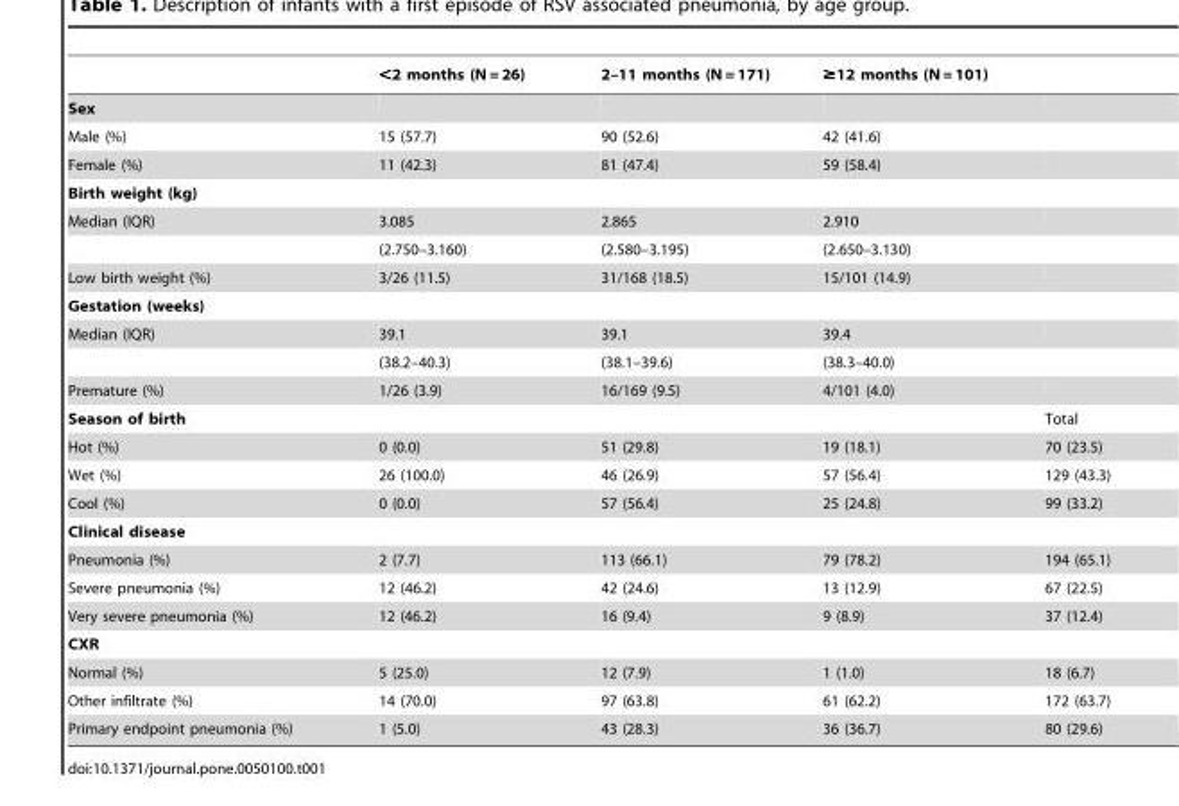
<table><thead><tr><td></td><td>&lt;2 months (N = 26)</td><td>2–11 months (N = 171)</td><td>≥12 months (N = 101)</td><td></td></tr></thead><tbody><tr><td colspan="5">Sex</td></tr><tr><td>Male (%)</td><td>15 (57.7)</td><td>90 (52.6)</td><td>42 (41.6)</td><td></td></tr><tr><td>Female (%)</td><td>11 (42.3)</td><td>81 (47.4)</td><td>59 (58.4)</td><td></td></tr><tr><td colspan="5">Birth weight (kg)</td></tr><tr><td rowspan="2">Median (IQR)</td><td>3.085</td><td>2.865</td><td>2.910</td><td></td></tr><tr><td>(2.750–3.160)</td><td>(2.580–3.195)</td><td>(2.650–3.130)</td><td></td></tr><tr><td>Low birth weight (%)</td><td>3/26 (11.5)</td><td>31/168 (18.5)</td><td>15/101 (14.9)</td><td></td></tr><tr><td colspan="5">Gestation (weeks)</td></tr><tr><td rowspan="2">Median (IQR)</td><td>39.1</td><td>39.1</td><td>39.4</td><td></td></tr><tr><td>(38.2–40.3)</td><td>(38.1–39.6)</td><td>(38.3–40.0)</td><td></td></tr><tr><td>Premature (%)</td><td>1/26 (3.9)</td><td>16/169 (9.5)</td><td>4/101 (4.0)</td><td></td></tr><tr><td>Season of birth</td><td></td><td></td><td></td><td>Total</td></tr><tr><td>Hot (%)</td><td>0 (0.0)</td><td>51 (29.8)</td><td>19 (18.1)</td><td>70 (23.5)</td></tr><tr><td>Wet (%)</td><td>26 (100.0)</td><td>46 (26.9)</td><td>57 (56.4)</td><td>129 (43.3)</td></tr><tr><td>Cool (%)</td><td>0 (0.0)</td><td>57 (56.4)</td><td>25 (24.8)</td><td>99 (33.2)</td></tr><tr><td colspan="5">Clinical disease</td></tr><tr><td>Pneumonia (%)</td><td>2 (7.7)</td><td>113 (66.1)</td><td>79 (78.2)</td><td>194 (65.1)</td></tr><tr><td>Severe pneumonia (%)</td><td>12 (46.2)</td><td>42 (24.6)</td><td>13 (12.9)</td><td>67 (22.5)</td></tr><tr><td>Very severe pneumonia (%)</td><td>12 (46.2)</td><td>16 (9.4)</td><td>9 (8.9)</td><td>37 (12.4)</td></tr><tr><td colspan="5">CXR</td></tr><tr><td>Normal (%)</td><td>5 (25.0)</td><td>12 (7.9)</td><td>1 (1.0)</td><td>18 (6.7)</td></tr><tr><td>Other infiltrate (%)</td><td>14 (70.0)</td><td>97 (63.8)</td><td>61 (62.2)</td><td>172 (63.7)</td></tr><tr><td>Primary endpoint pneumonia (%)</td><td>1 (5.0)</td><td>43 (28.3)</td><td>36 (36.7)</td><td>80 (29.6)</td></tr></tbody></table>